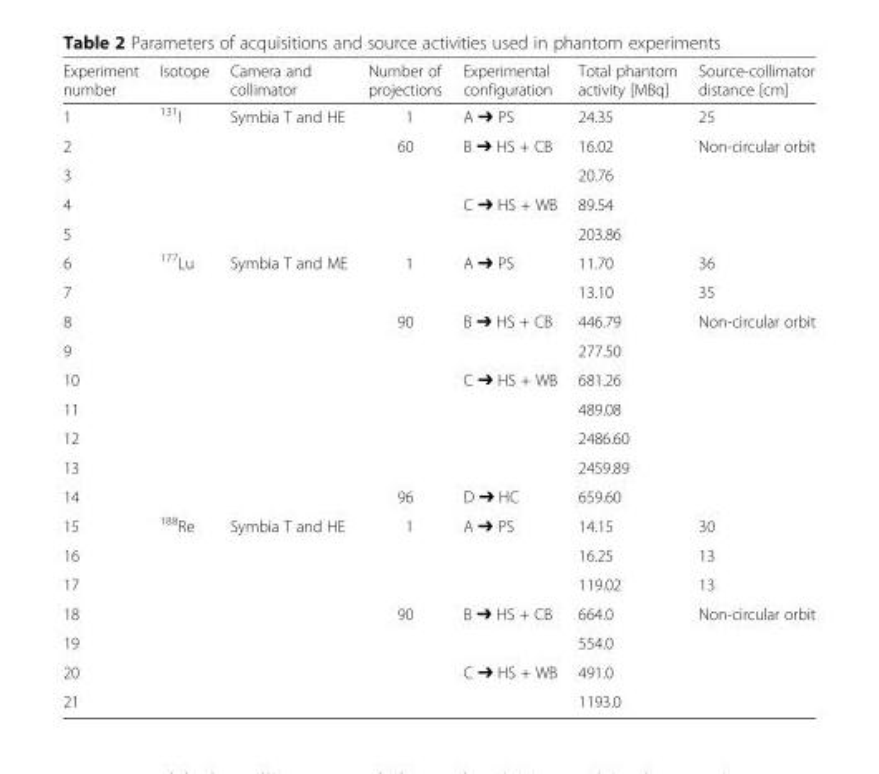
<table><thead><tr><td>Experiment number</td><td>Isotope</td><td>Camera and collimator</td><td>Number of projections</td><td>Experimental configuration</td><td>Total phantom activity [MBq]</td><td>Source-collimator distance [cm]</td></tr></thead><tbody><tr><td>1</td><td rowspan="5"><sup>131</sup>I</td><td rowspan="5">Symbia T and HE</td><td>1</td><td>A ➔ PS</td><td>24.35</td><td>25</td></tr><tr><td>2</td><td rowspan="4">60</td><td rowspan="2">B ➔ HS + CB</td><td>16.02</td><td rowspan="4">Non-circular orbit</td></tr><tr><td>3</td><td>20.76</td></tr><tr><td>4</td><td rowspan="2">C ➔ HS + WB</td><td>89.54</td></tr><tr><td>5</td><td>203.86</td></tr><tr><td>6</td><td rowspan="9"><sup>177</sup>Lu</td><td rowspan="9">Symbia T and ME</td><td rowspan="2">1</td><td rowspan="2">A ➔ PS</td><td>11.70</td><td>36</td></tr><tr><td>7</td><td>13.10</td><td>35</td></tr><tr><td>8</td><td rowspan="6">90</td><td rowspan="2">B ➔ HS + CB</td><td>446.79</td><td rowspan="7">Non-circular orbit</td></tr><tr><td>9</td><td>277.50</td></tr><tr><td>10</td><td rowspan="4">C ➔ HS + WB</td><td>681.26</td></tr><tr><td>11</td><td>489.08</td></tr><tr><td>12</td><td>2486.60</td></tr><tr><td>13</td><td>2459.89</td></tr><tr><td>14</td><td>96</td><td>D ➔ HC</td><td>659.60</td></tr><tr><td>15</td><td rowspan="7"><sup>188</sup>Re</td><td rowspan="7">Symbia T and HE</td><td rowspan="3">1</td><td rowspan="3">A ➔ PS</td><td>14.15</td><td>30</td></tr><tr><td>16</td><td>16.25</td><td>13</td></tr><tr><td>17</td><td>119.02</td><td>13</td></tr><tr><td>18</td><td rowspan="4">90</td><td rowspan="2">B ➔ HS + CB</td><td>664.0</td><td rowspan="4">Non-circular orbit</td></tr><tr><td>19</td><td>554.0</td></tr><tr><td>20</td><td rowspan="2">C ➔ HS + WB</td><td>491.0</td></tr><tr><td>21</td><td>1193.0</td></tr></tbody></table>